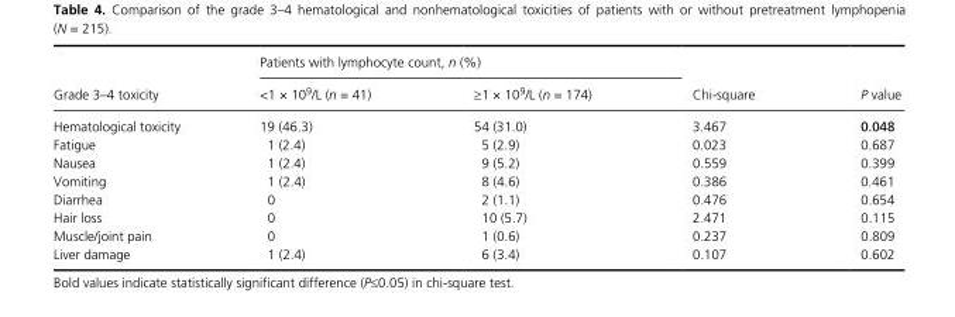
<table><thead><tr><td rowspan="2">Grade 3–4 toxicity</td><td colspan="2">Patients with lymphocyte count, n (%)</td><td rowspan="2">Chi- square</td><td rowspan="2">P value</td></tr><tr><td>&lt;1 × 10<sup>9</sup>/L (n = 41)</td><td>≥1 × 10<sup>9</sup>/L (n = 174)</td></tr></thead><tbody><tr><td>Hematological toxicity</td><td>19 (46.3)</td><td>54 (31.0)</td><td>3.467</td><td>0.048</td></tr><tr><td>Fatigue</td><td>1 (2.4)</td><td>5 (2.9)</td><td>0.023</td><td>0.687</td></tr><tr><td>Nausea</td><td>1 (2.4)</td><td>9 (5.2)</td><td>0.559</td><td>0.399</td></tr><tr><td>Vomiting</td><td>1 (2.4)</td><td>8 (4.6)</td><td>0.386</td><td>0.461</td></tr><tr><td>Diarrhea</td><td>0</td><td>2 (1.1)</td><td>0.476</td><td>0.654</td></tr><tr><td>Hair loss</td><td>0</td><td>10 (5.7)</td><td>2.471</td><td>0.115</td></tr><tr><td>Muscle/joint pain</td><td>0</td><td>1 (0.6)</td><td>0.237</td><td>0.809</td></tr><tr><td>Liver damage</td><td>1 (2.4)</td><td>6 (3.4)</td><td>0.107</td><td>0.602</td></tr></tbody></table>